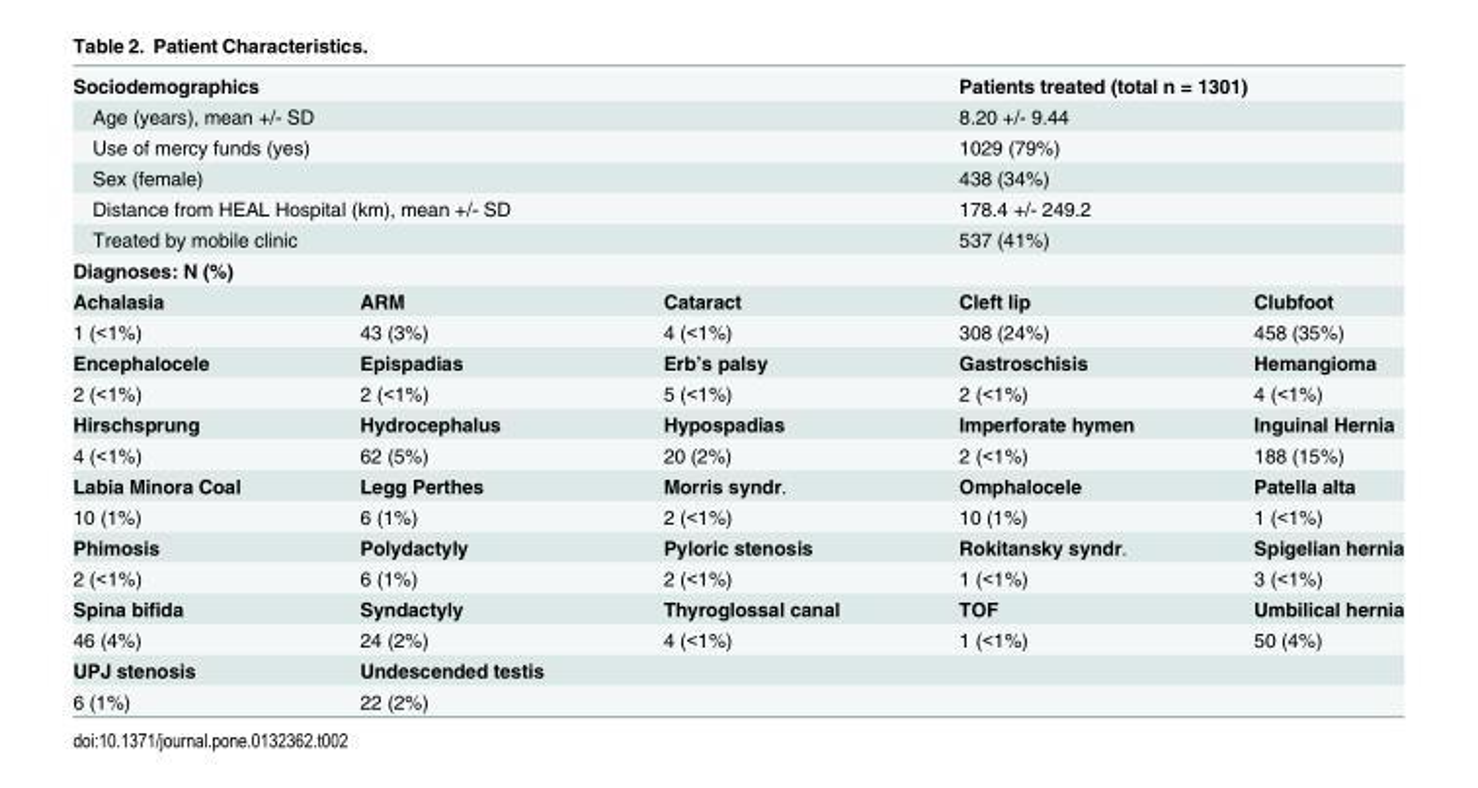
<table><tbody><tr><td colspan="3">Sociodemographics</td><td colspan="2">Patients treated (total n = 1301)</td></tr><tr><td colspan="3">Age (years), mean +/- SD</td><td colspan="2">8.20 +/- 9.44</td></tr><tr><td colspan="3">Use of mercy funds (yes)</td><td colspan="2">1029 (79%)</td></tr><tr><td colspan="3">Sex (female)</td><td colspan="2">438 (34%)</td></tr><tr><td colspan="3">Distance from HEAL Hospital (km), mean +/- SD</td><td colspan="2">178.4 +/- 249.2</td></tr><tr><td colspan="3">Treated by mobile clinic</td><td colspan="2">537 (41%)</td></tr><tr><td colspan="5">Diagnoses: N (%)</td></tr><tr><td>Achalasia</td><td>ARM</td><td>Cataract</td><td>Cleft lip</td><td>Clubfoot</td></tr><tr><td>1 (&lt;1%)</td><td>43 (3%)</td><td>4 (&lt;1%)</td><td>308 (24%)</td><td>458 (35%)</td></tr><tr><td>Encephalocele</td><td>Epispadias</td><td>Erb’s palsy</td><td>Gastroschisis</td><td>Hemangioma</td></tr><tr><td>2 (&lt;1%)</td><td>2 (&lt;1%)</td><td>5 (&lt;1%)</td><td>2 (&lt;1%)</td><td>4 (&lt;1%)</td></tr><tr><td>Hirschsprung</td><td>Hydrocephalus</td><td>Hypospadias</td><td>Imperforate hymen</td><td>Inguinal Hernia</td></tr><tr><td>4 (&lt;1%)</td><td>62 (5%)</td><td>20 (2%)</td><td>2 (&lt;1%)</td><td>188 (15%)</td></tr><tr><td>Labia Minora Coal</td><td>Legg Perthes</td><td>Morris syndr.</td><td>Omphalocele</td><td>Patella alta</td></tr><tr><td>10 (1%)</td><td>6 (1%)</td><td>2 (&lt;1%)</td><td>10 (1%)</td><td>1 (&lt;1%)</td></tr><tr><td>Phimosis</td><td>Polydactyly</td><td>Pyloric stenosis</td><td>Rokitansky syndr.</td><td>Spigelian hernia</td></tr><tr><td>2 (&lt;1%)</td><td>6 (1%)</td><td>2 (&lt;1%)</td><td>1 (&lt;1%)</td><td>3 (&lt;1%)</td></tr><tr><td>Spina bifida</td><td>Syndactyly</td><td>Thyroglossal canal</td><td>TOF</td><td>Umbilical hernia</td></tr><tr><td>46 (4%)</td><td>24 (2%)</td><td>4 (&lt;1%)</td><td>1 (&lt;1%)</td><td>50 (4%)</td></tr><tr><td>UPJ stenosis</td><td>Undescended testis</td><td></td><td></td><td></td></tr><tr><td>6 (1%)</td><td>22 (2%)</td><td></td><td></td><td></td></tr></tbody></table>